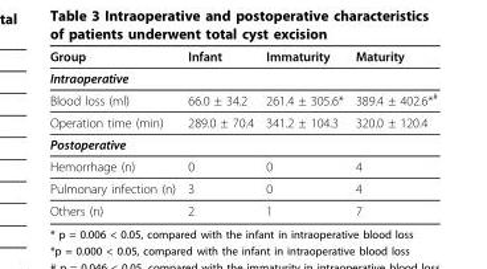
<table><thead><tr><td>Group</td><td>Infant</td><td>Immaturity</td><td>Maturity</td></tr></thead><tbody><tr><td colspan="4">Intraoperative</td></tr><tr><td>Blood loss (ml)</td><td>66.0 ± 34.2</td><td>261.4 ± 305.6*</td><td>389.4 ± 402.6*<sup>#</sup></td></tr><tr><td>Operation time (min)</td><td>289.0 ± 70.4</td><td>341.2 ± 104.3</td><td>320.0 ± 120.4</td></tr><tr><td colspan="4">Postoperative</td></tr><tr><td>Hemorrhage (n)</td><td>0</td><td>0</td><td>4</td></tr><tr><td>Pulmonary infection (n)</td><td>3</td><td>0</td><td>4</td></tr><tr><td>Others (n)</td><td>2</td><td>1</td><td>7</td></tr></tbody></table>